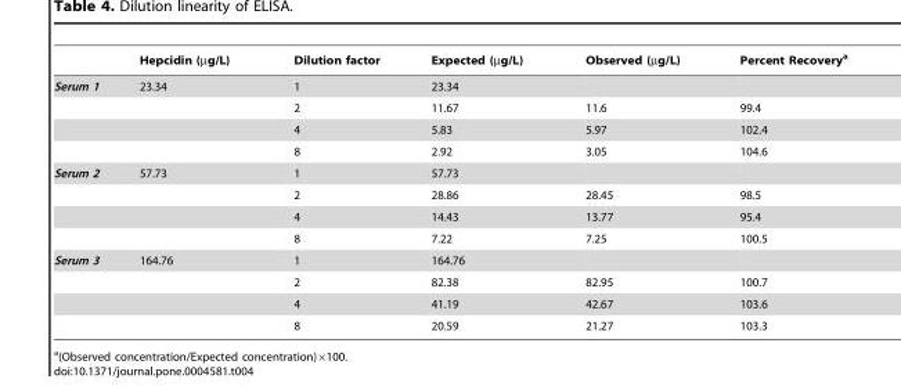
<table><thead><tr><td></td><td>Hepcidin (µg/L)</td><td>Dilution factor</td><td>Expected (µg/L)</td><td>Observed (µg/L)</td><td>Percent Recovery<sup>a</sup></td></tr></thead><tbody><tr><td rowspan="4">Serum 1</td><td>23.34</td><td>1</td><td>23.34</td><td></td><td></td></tr><tr><td></td><td>2</td><td>11.67</td><td>11.6</td><td>99.4</td></tr><tr><td></td><td>4</td><td>5.83</td><td>5.97</td><td>102.4</td></tr><tr><td></td><td>8</td><td>2.92</td><td>3.05</td><td>104.6</td></tr><tr><td rowspan="4">Serum 2</td><td>57.73</td><td>1</td><td>57.73</td><td></td><td></td></tr><tr><td></td><td>2</td><td>28.86</td><td>28.45</td><td>98.5</td></tr><tr><td></td><td>4</td><td>14.43</td><td>13.77</td><td>95.4</td></tr><tr><td></td><td>8</td><td>7.22</td><td>7.25</td><td>100.5</td></tr><tr><td rowspan="4">Serum 3</td><td>164.76</td><td>1</td><td>164.76</td><td></td><td></td></tr><tr><td></td><td>2</td><td>82.38</td><td>82.95</td><td>100.7</td></tr><tr><td></td><td>4</td><td>41.19</td><td>42.67</td><td>103.6</td></tr><tr><td></td><td>8</td><td>20.59</td><td>21.27</td><td>103.3</td></tr></tbody></table>